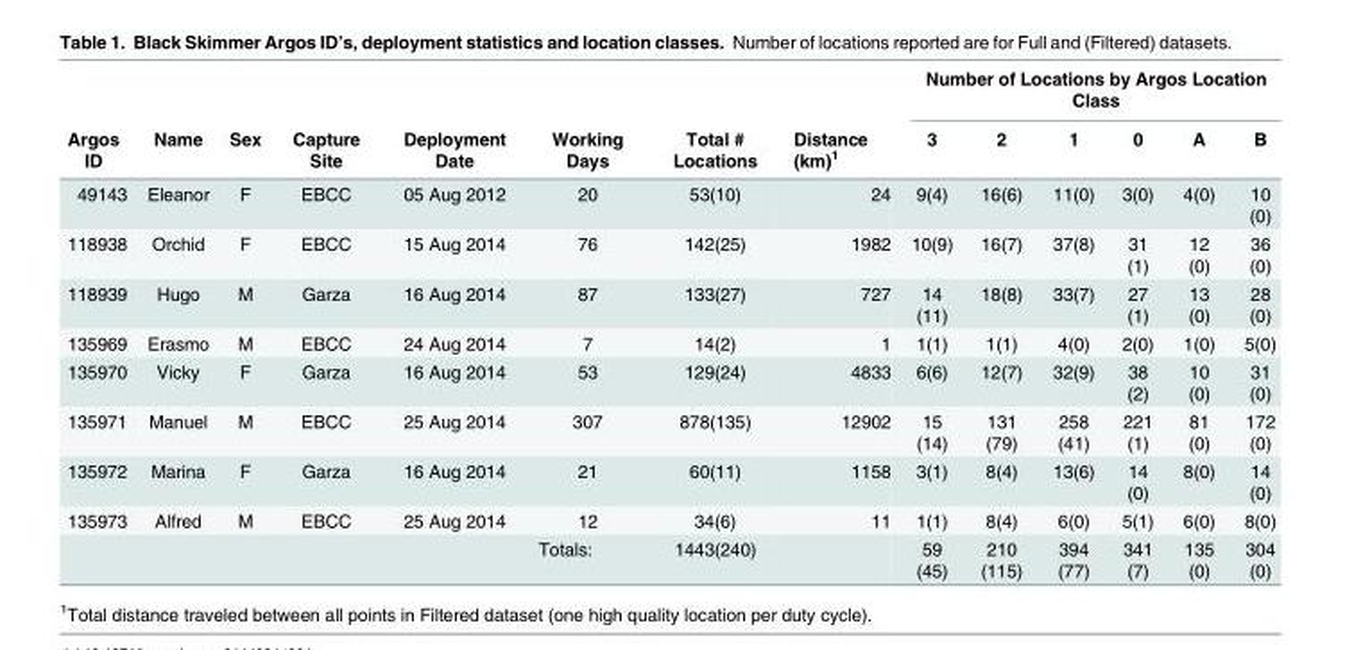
<table><thead><tr><td rowspan="2">Argos ID</td><td rowspan="2">Name</td><td rowspan="2">Sex</td><td rowspan="2">Capture Site</td><td rowspan="2">Deployment Date</td><td rowspan="2">Working Days</td><td rowspan="2">Total # Locations</td><td rowspan="2">Distance (km)<sup>1</sup></td><td colspan="6">Number of Locations by Argos Location Class</td></tr><tr><td>3</td><td>2</td><td>1</td><td>0</td><td>A</td><td>B</td></tr></thead><tbody><tr><td>49143</td><td>Eleanor</td><td>F</td><td>EBCC</td><td>05 Aug 2012</td><td>20</td><td>53(10)</td><td>24</td><td>9(4)</td><td>16(6)</td><td>11(0)</td><td>3(0)</td><td>4(0)</td><td>10 (0)</td></tr><tr><td>118938</td><td>Orchid</td><td>F</td><td>EBCC</td><td>15 Aug 2014</td><td>76</td><td>142(25)</td><td>1982</td><td>10(9)</td><td>16(7)</td><td>37(8)</td><td>31 (1)</td><td>12 (0)</td><td>36 (0)</td></tr><tr><td>118939</td><td>Hugo</td><td>M</td><td>Garza</td><td>16 Aug 2014</td><td>87</td><td>133(27)</td><td>727</td><td>14 (11)</td><td>18(8)</td><td>33(7)</td><td>27 (1)</td><td>13 (0)</td><td>28 (0)</td></tr><tr><td>135969</td><td>Erasmo</td><td>M</td><td>EBCC</td><td>24 Aug 2014</td><td>7</td><td>14(2)</td><td>1</td><td>1(1)</td><td>1(1)</td><td>4(0)</td><td>2(0)</td><td>1(0)</td><td>5(0)</td></tr><tr><td>135970</td><td>Vicky</td><td>F</td><td>Garza</td><td>16 Aug 2014</td><td>53</td><td>129(24)</td><td>4833</td><td>6(6)</td><td>12(7)</td><td>32(9)</td><td>38 (2)</td><td>10 (0)</td><td>31 (0)</td></tr><tr><td>135971</td><td>Manuel</td><td>M</td><td>EBCC</td><td>25 Aug 2014</td><td>307</td><td>878(135)</td><td>12902</td><td>15 (14)</td><td>131 (79)</td><td>258 (41)</td><td>221 (1)</td><td>81 (0)</td><td>172 (0)</td></tr><tr><td>135972</td><td>Marina</td><td>F</td><td>Garza</td><td>16 Aug 2014</td><td>21</td><td>60(11)</td><td>1158</td><td>3(1)</td><td>8(4)</td><td>13(6)</td><td>14 (0)</td><td>8(0)</td><td>14 (0)</td></tr><tr><td rowspan="2">135973</td><td>Alfred</td><td>M</td><td>EBCC</td><td>25 Aug 2014</td><td>12</td><td>34(6)</td><td>11</td><td>1(1)</td><td>8(4)</td><td>6(0)</td><td>5(1)</td><td>6(0)</td><td>8(0)</td></tr><tr><td></td><td></td><td></td><td></td><td>Totals:</td><td>1443(240)</td><td></td><td>59 (45)</td><td>210 (115)</td><td>394 (77)</td><td>341 (7)</td><td>135 (0)</td><td>304 (0)</td></tr></tbody></table>